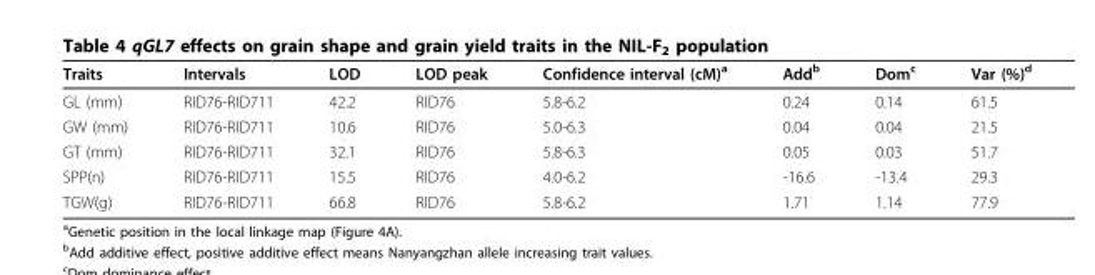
<table><thead><tr><td>Traits</td><td>Intervals</td><td>LOD</td><td>LOD peak</td><td>Confidence interval (cM)<sup>a</sup></td><td>Add<sup>b</sup></td><td>Dom<sup>c</sup></td><td>Var (%)<sup>d</sup></td></tr></thead><tbody><tr><td>GL (mm)</td><td>RID76-RID711</td><td>42.2</td><td>RID76</td><td>5.8-6.2</td><td>0.24</td><td>0.14</td><td>61.5</td></tr><tr><td>GW (mm)</td><td>RID76-RID711</td><td>10.6</td><td>RID76</td><td>5.0-6.3</td><td>0.04</td><td>0.04</td><td>21.5</td></tr><tr><td>GT (mm)</td><td>RID76-RID711</td><td>32.1</td><td>RID76</td><td>5.8-6.3</td><td>0.05</td><td>0.03</td><td>51.7</td></tr><tr><td>SPP(n)</td><td>RID76-RID711</td><td>15.5</td><td>RID76</td><td>4.0-6.2</td><td>-16.6</td><td>-13.4</td><td>29.3</td></tr><tr><td>TGW(g)</td><td>RID76-RID711</td><td>66.8</td><td>RID76</td><td>5.8-6.2</td><td>1.71</td><td>1.14</td><td>77.9</td></tr></tbody></table>